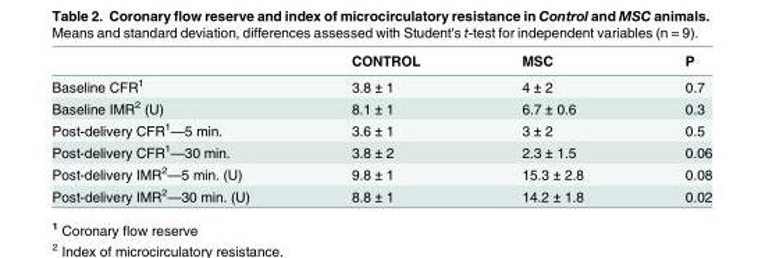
<table><thead><tr><td></td><td>CONTROL</td><td>MSC</td><td>P</td></tr></thead><tbody><tr><td>Baseline CFR<sup>1</sup></td><td>3.8 ± 1</td><td>4 ± 2</td><td>0.7</td></tr><tr><td>Baseline IMR<sup>2</sup> (U)</td><td>8.1 ± 1</td><td>6.7 ± 0.6</td><td>0.3</td></tr><tr><td>Post-delivery CFR<sup>1</sup>—5 min.</td><td>3.6 ± 1</td><td>3 ± 2</td><td>0.5</td></tr><tr><td>Post-delivery CFR<sup>1</sup>—30 min.</td><td>3.8 ± 2</td><td>2.3 ± 1.5</td><td>0.06</td></tr><tr><td>Post-delivery IMR<sup>2</sup>—5 min. (U)</td><td>9.8 ± 1</td><td>15.3 ± 2.8</td><td>0.08</td></tr><tr><td>Post-delivery IMR<sup>2</sup>—30 min. (U)</td><td>8.8 ± 1</td><td>14.2 ± 1.8</td><td>0.02</td></tr></tbody></table>